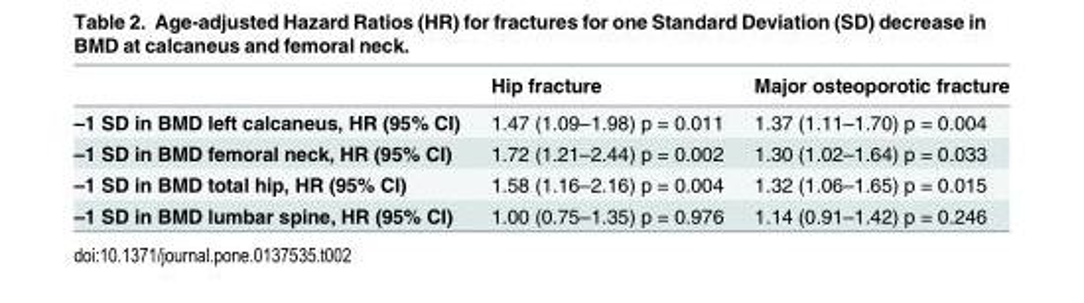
<table><thead><tr><td></td><td>Hip fracture</td><td>Major osteoporotic fracture</td></tr></thead><tbody><tr><td>–1 SD in BMD left calcaneus, HR (95% CI)</td><td>1.47 (1.09–1.98) p = 0.011</td><td>1.37 (1.11–1.70) p = 0.004</td></tr><tr><td>–1 SD in BMD femoral neck, HR (95% CI)</td><td>1.72 (1.21–2.44) p = 0.002</td><td>1.30 (1.02–1.64) p = 0.033</td></tr><tr><td>–1 SD in BMD total hip, HR (95% CI)</td><td>1.58 (1.16–2.16) p = 0.004</td><td>1.32 (1.06–1.65) p = 0.015</td></tr><tr><td>–1 SD in BMD lumbar spine, HR (95% CI)</td><td>1.00 (0.75–1.35) p = 0.976</td><td>1.14 (0.91–1.42) p = 0.246</td></tr></tbody></table>